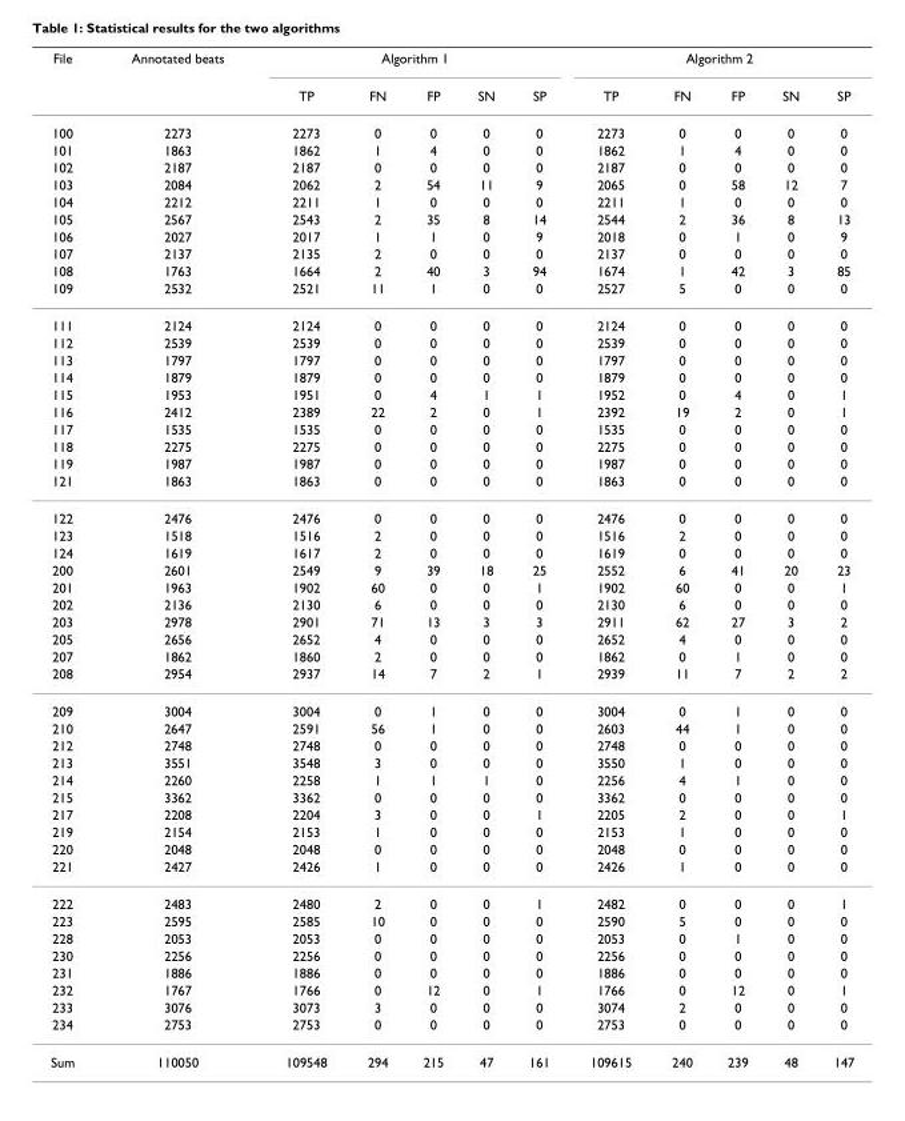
<table><thead><tr><td rowspan="2">File</td><td rowspan="2">Annotated beats</td><td colspan="5">Algorithm 1</td><td colspan="5">Algorithm 2</td></tr><tr><td>TP</td><td>FN</td><td>FP</td><td>SN</td><td>SP</td><td>TP</td><td>FN</td><td>FP</td><td>SN</td><td>SP</td></tr></thead><tbody><tr><td>100</td><td>2273</td><td>2273</td><td>0</td><td>0</td><td>0</td><td>0</td><td>2273</td><td>0</td><td>0</td><td>0</td><td>0</td></tr><tr><td>101</td><td>1863</td><td>1862</td><td>1</td><td>4</td><td>0</td><td>0</td><td>1862</td><td>1</td><td>4</td><td>0</td><td>0</td></tr><tr><td>102</td><td>2187</td><td>2187</td><td>0</td><td>0</td><td>0</td><td>0</td><td>2187</td><td>0</td><td>0</td><td>0</td><td>0</td></tr><tr><td>103</td><td>2084</td><td>2062</td><td>2</td><td>54</td><td>11</td><td>9</td><td>2065</td><td>0</td><td>58</td><td>12</td><td>7</td></tr><tr><td>104</td><td>2212</td><td>2211</td><td>1</td><td>0</td><td>0</td><td>0</td><td>2211</td><td>1</td><td>0</td><td>0</td><td>0</td></tr><tr><td>105</td><td>2567</td><td>2543</td><td>2</td><td>35</td><td>8</td><td>14</td><td>2544</td><td>2</td><td>36</td><td>8</td><td>13</td></tr><tr><td>106</td><td>2027</td><td>2017</td><td>1</td><td>1</td><td>0</td><td>9</td><td>2018</td><td>0</td><td>1</td><td>0</td><td>9</td></tr><tr><td>107</td><td>2137</td><td>2135</td><td>2</td><td>0</td><td>0</td><td>0</td><td>2137</td><td>0</td><td>0</td><td>0</td><td>0</td></tr><tr><td>108</td><td>1763</td><td>1664</td><td>2</td><td>40</td><td>3</td><td>94</td><td>1674</td><td>1</td><td>42</td><td>3</td><td>85</td></tr><tr><td>109</td><td>2532</td><td>2521</td><td>11</td><td>1</td><td>0</td><td>0</td><td>2527</td><td>5</td><td>0</td><td>0</td><td>0</td></tr><tr><td>111</td><td>2124</td><td>2124</td><td>0</td><td>0</td><td>0</td><td>0</td><td>2124</td><td>0</td><td>0</td><td>0</td><td>0</td></tr><tr><td>112</td><td>2539</td><td>2539</td><td>0</td><td>0</td><td>0</td><td>0</td><td>2539</td><td>0</td><td>0</td><td>0</td><td>0</td></tr><tr><td>113</td><td>1797</td><td>1797</td><td>0</td><td>0</td><td>0</td><td>0</td><td>1797</td><td>0</td><td>0</td><td>0</td><td>0</td></tr><tr><td>114</td><td>1879</td><td>1879</td><td>0</td><td>0</td><td>0</td><td>0</td><td>1879</td><td>0</td><td>0</td><td>0</td><td>0</td></tr><tr><td>115</td><td>1953</td><td>1951</td><td>0</td><td>4</td><td>1</td><td>1</td><td>1952</td><td>0</td><td>4</td><td>0</td><td>1</td></tr><tr><td>116</td><td>2412</td><td>2389</td><td>22</td><td>2</td><td>0</td><td>1</td><td>2392</td><td>19</td><td>2</td><td>0</td><td>1</td></tr><tr><td>117</td><td>1535</td><td>1535</td><td>0</td><td>0</td><td>0</td><td>0</td><td>1535</td><td>0</td><td>0</td><td>0</td><td>0</td></tr><tr><td>118</td><td>2275</td><td>2275</td><td>0</td><td>0</td><td>0</td><td>0</td><td>2275</td><td>0</td><td>0</td><td>0</td><td>0</td></tr><tr><td>119</td><td>1987</td><td>1987</td><td>0</td><td>0</td><td>0</td><td>0</td><td>1987</td><td>0</td><td>0</td><td>0</td><td>0</td></tr><tr><td>121</td><td>1863</td><td>1863</td><td>0</td><td>0</td><td>0</td><td>0</td><td>1863</td><td>0</td><td>0</td><td>0</td><td>0</td></tr><tr><td>122</td><td>2476</td><td>2476</td><td>0</td><td>0</td><td>0</td><td>0</td><td>2476</td><td>0</td><td>0</td><td>0</td><td>0</td></tr><tr><td>123</td><td>1518</td><td>1516</td><td>2</td><td>0</td><td>0</td><td>0</td><td>1516</td><td>2</td><td>0</td><td>0</td><td>0</td></tr><tr><td>124</td><td>1619</td><td>1617</td><td>2</td><td>0</td><td>0</td><td>0</td><td>1619</td><td>0</td><td>0</td><td>0</td><td>0</td></tr><tr><td>200</td><td>2601</td><td>2549</td><td>9</td><td>39</td><td>18</td><td>25</td><td>2552</td><td>6</td><td>41</td><td>20</td><td>23</td></tr><tr><td>201</td><td>1963</td><td>1902</td><td>60</td><td>0</td><td>0</td><td>1</td><td>1902</td><td>60</td><td>0</td><td>0</td><td>1</td></tr><tr><td>202</td><td>2136</td><td>2130</td><td>6</td><td>0</td><td>0</td><td>0</td><td>2130</td><td>6</td><td>0</td><td>0</td><td>0</td></tr><tr><td>203</td><td>2978</td><td>2901</td><td>71</td><td>13</td><td>3</td><td>3</td><td>2911</td><td>62</td><td>27</td><td>3</td><td>2</td></tr><tr><td>205</td><td>2656</td><td>2652</td><td>4</td><td>0</td><td>0</td><td>0</td><td>2652</td><td>4</td><td>0</td><td>0</td><td>0</td></tr><tr><td>207</td><td>1862</td><td>1860</td><td>2</td><td>0</td><td>0</td><td>0</td><td>1862</td><td>0</td><td>1</td><td>0</td><td>0</td></tr><tr><td>208</td><td>2954</td><td>2937</td><td>14</td><td>7</td><td>2</td><td>1</td><td>2939</td><td>11</td><td>7</td><td>2</td><td>2</td></tr><tr><td>209</td><td>3004</td><td>3004</td><td>0</td><td>1</td><td>0</td><td>0</td><td>3004</td><td>0</td><td>1</td><td>0</td><td>0</td></tr><tr><td>210</td><td>2647</td><td>2591</td><td>56</td><td>1</td><td>0</td><td>0</td><td>2603</td><td>44</td><td>1</td><td>0</td><td>0</td></tr><tr><td>212</td><td>2748</td><td>2748</td><td>0</td><td>0</td><td>0</td><td>0</td><td>2748</td><td>0</td><td>0</td><td>0</td><td>0</td></tr><tr><td>213</td><td>3551</td><td>3548</td><td>3</td><td>0</td><td>0</td><td>0</td><td>3550</td><td>1</td><td>0</td><td>0</td><td>0</td></tr><tr><td>214</td><td>2260</td><td>2258</td><td>1</td><td>1</td><td>1</td><td>0</td><td>2256</td><td>4</td><td>1</td><td>0</td><td>0</td></tr><tr><td>215</td><td>3362</td><td>3362</td><td>0</td><td>0</td><td>0</td><td>0</td><td>3362</td><td>0</td><td>0</td><td>0</td><td>0</td></tr><tr><td>217</td><td>2208</td><td>2204</td><td>3</td><td>0</td><td>0</td><td>1</td><td>2205</td><td>2</td><td>0</td><td>0</td><td>1</td></tr><tr><td>219</td><td>2154</td><td>2153</td><td>1</td><td>0</td><td>0</td><td>0</td><td>2153</td><td>1</td><td>0</td><td>0</td><td>0</td></tr><tr><td>220</td><td>2048</td><td>2048</td><td>0</td><td>0</td><td>0</td><td>0</td><td>2048</td><td>0</td><td>0</td><td>0</td><td>0</td></tr><tr><td>221</td><td>2427</td><td>2426</td><td>1</td><td>0</td><td>0</td><td>0</td><td>2426</td><td>1</td><td>0</td><td>0</td><td>0</td></tr><tr><td>222</td><td>2483</td><td>2480</td><td>2</td><td>0</td><td>0</td><td>1</td><td>2482</td><td>0</td><td>0</td><td>0</td><td>1</td></tr><tr><td>223</td><td>2595</td><td>2585</td><td>10</td><td>0</td><td>0</td><td>0</td><td>2590</td><td>5</td><td>0</td><td>0</td><td>0</td></tr><tr><td>228</td><td>2053</td><td>2053</td><td>0</td><td>0</td><td>0</td><td>0</td><td>2053</td><td>0</td><td>1</td><td>0</td><td>0</td></tr><tr><td>230</td><td>2256</td><td>2256</td><td>0</td><td>0</td><td>0</td><td>0</td><td>2256</td><td>0</td><td>0</td><td>0</td><td>0</td></tr><tr><td>231</td><td>1886</td><td>1886</td><td>0</td><td>0</td><td>0</td><td>0</td><td>1886</td><td>0</td><td>0</td><td>0</td><td>0</td></tr><tr><td>232</td><td>1767</td><td>1766</td><td>0</td><td>12</td><td>0</td><td>1</td><td>1766</td><td>0</td><td>12</td><td>0</td><td>1</td></tr><tr><td>233</td><td>3076</td><td>3073</td><td>3</td><td>0</td><td>0</td><td>0</td><td>3074</td><td>2</td><td>0</td><td>0</td><td>0</td></tr><tr><td>234</td><td>2753</td><td>2753</td><td>0</td><td>0</td><td>0</td><td>0</td><td>2753</td><td>0</td><td>0</td><td>0</td><td>0</td></tr><tr><td>Sum</td><td>110050</td><td>109548</td><td>294</td><td>215</td><td>47</td><td>161</td><td>109615</td><td>240</td><td>239</td><td>48</td><td>147</td></tr></tbody></table>